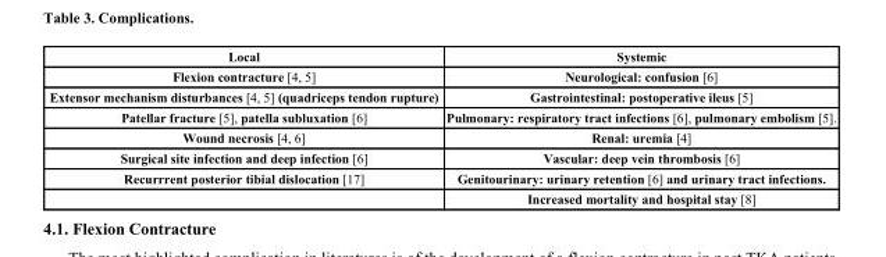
<table><thead><tr><td>Local</td><td>Systemic</td></tr></thead><tbody><tr><td>Flexion contracture [4, 5]</td><td>Neurological: confusion [6]</td></tr><tr><td>Extensor mechanism disturbances [4, 5] (quadriceps tendon rupture)</td><td>Gastrointestinal: postoperative ileus [5]</td></tr><tr><td>Patellar fracture [5], patella subluxation [6]</td><td>Pulmonary: respiratory tract infections [6], pulmonary embolism [5].</td></tr><tr><td>Wound necrosis [4, 6]</td><td>Renal: uremia [4]</td></tr><tr><td>Surgical site infection and deep infection [6]</td><td>Vascular: deep vein thrombosis [6]</td></tr><tr><td rowspan="2">Recurrrent posterior tibial dislocation [17]</td><td>Genitourinary: urinary retention [6] and urinary tract infections.</td></tr><tr><td>Increased mortality and hospital stay [8]</td></tr></tbody></table>